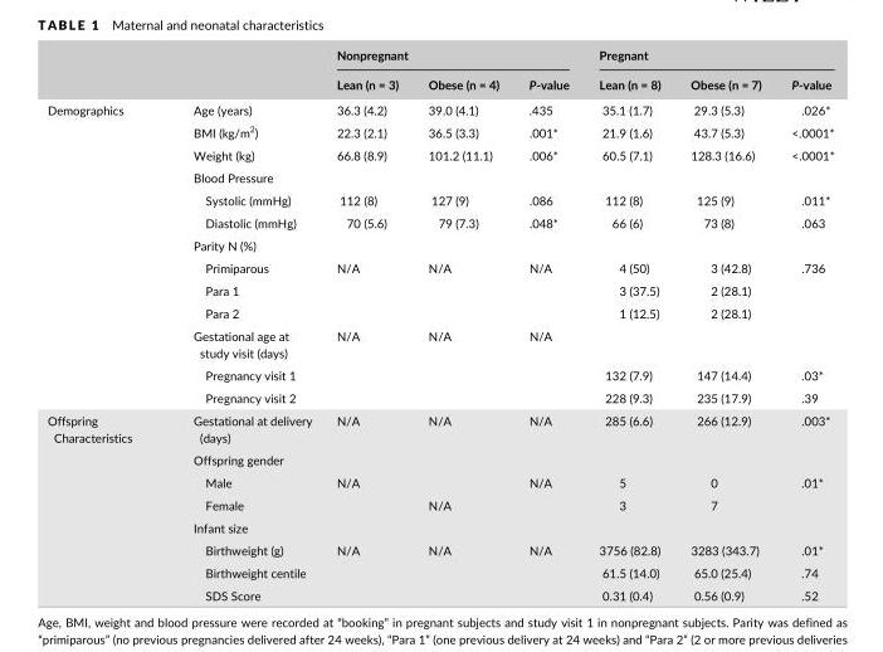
<table><thead><tr><td rowspan="2"></td><td rowspan="2"></td><td colspan="3">Nonpregnant</td><td colspan="3">Pregnant</td></tr><tr><td>Lean (n = 3)</td><td>Obese (n = 4)</td><td>P- value</td><td>Lean (n = 8)</td><td>Obese (n = 7)</td><td>P- value</td></tr></thead><tbody><tr><td rowspan="13">Demographics</td><td>Age (years)</td><td>36.3 (4.2)</td><td>39.0 (4.1)</td><td>.435</td><td>35.1 (1.7)</td><td>29.3 (5.3)</td><td>.026*</td></tr><tr><td>BMI (kg/m<sup>2</sup>)</td><td>22.3 (2.1)</td><td>36.5 (3.3)</td><td>.001*</td><td>21.9 (1.6)</td><td>43.7 (5.3)</td><td>&lt;.0001*</td></tr><tr><td>Weight (kg)</td><td>66.8 (8.9)</td><td>101.2 (11.1)</td><td>.006*</td><td>60.5 (7.1)</td><td>128.3 (16.6)</td><td>&lt;.0001*</td></tr><tr><td colspan="7">Blood Pressure</td></tr><tr><td>Systolic (mmHg)</td><td>112 (8)</td><td>127 (9)</td><td>.086</td><td>112 (8)</td><td>125 (9)</td><td>.011*</td></tr><tr><td>Diastolic (mmHg)</td><td>70 (5.6)</td><td>79 (7.3)</td><td>.048*</td><td>66 (6)</td><td>73 (8)</td><td>.063</td></tr><tr><td colspan="7">Parity N (%)</td></tr><tr><td>Primiparous</td><td>N/A</td><td>N/A</td><td>N/A</td><td>4 (50)</td><td>3 (42.8)</td><td rowspan="3">.736</td></tr><tr><td>Para 1</td><td></td><td></td><td></td><td>3 (37.5)</td><td>2 (28.1)</td></tr><tr><td>Para 2</td><td></td><td></td><td></td><td>1 (12.5)</td><td>2 (28.1)</td></tr><tr><td>Gestational age at study visit (days)</td><td>N/A</td><td>N/A</td><td>N/A</td><td></td><td></td><td></td></tr><tr><td>Pregnancy visit 1</td><td></td><td></td><td></td><td>132 (7.9)</td><td>147 (14.4)</td><td>.03*</td></tr><tr><td>Pregnancy visit 2</td><td></td><td></td><td></td><td>228 (9.3)</td><td>235 (17.9)</td><td>.39</td></tr><tr><td rowspan="8">Offspring Characteristics</td><td>Gestational at delivery (days)</td><td>N/A</td><td>N/A</td><td>N/A</td><td>285 (6.6)</td><td>266 (12.9)</td><td>.003*</td></tr><tr><td>Offspring gender</td><td></td><td></td><td></td><td></td><td></td><td></td></tr><tr><td>Male</td><td>N/A</td><td></td><td>N/A</td><td>5</td><td>0</td><td rowspan="2">.01*</td></tr><tr><td>Female</td><td></td><td>N/A</td><td></td><td>3</td><td>7</td></tr><tr><td colspan="7">Infant size</td></tr><tr><td>Birthweight (g)</td><td>N/A</td><td>N/A</td><td>N/A</td><td>3756 (82.8)</td><td>3283 (343.7)</td><td>.01*</td></tr><tr><td>Birthweight centile</td><td></td><td></td><td></td><td>61.5 (14.0)</td><td>65.0 (25.4)</td><td>.74</td></tr><tr><td>SDS Score</td><td></td><td></td><td></td><td>0.31 (0.4)</td><td>0.56 (0.9)</td><td>.52</td></tr></tbody></table>